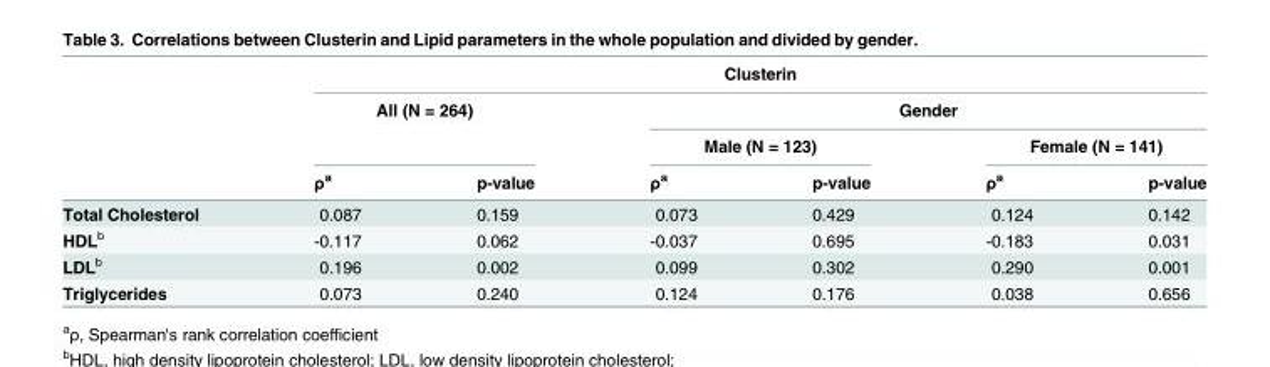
<table><thead><tr><td rowspan="4"></td><td colspan="6">Clusterin</td></tr><tr><td rowspan="2" colspan="2">All (N = 264)</td><td colspan="4">Gender</td></tr><tr><td colspan="2">Male (N = 123)</td><td colspan="2">Female (N = 141)</td></tr><tr><td>ρ<sup>a</sup></td><td>p-value</td><td>ρ<sup>a</sup></td><td>p-value</td><td>ρ<sup>a</sup></td><td>p-value</td></tr></thead><tbody><tr><td>Total Cholesterol</td><td>0.087</td><td>0.159</td><td>0.073</td><td>0.429</td><td>0.124</td><td>0.142</td></tr><tr><td>HDL<sup>b</sup></td><td>-0.117</td><td>0.062</td><td>-0.037</td><td>0.695</td><td>-0.183</td><td>0.031</td></tr><tr><td>LDL<sup>b</sup></td><td>0.196</td><td>0.002</td><td>0.099</td><td>0.302</td><td>0.290</td><td>0.001</td></tr><tr><td>Triglycerides</td><td>0.073</td><td>0.240</td><td>0.124</td><td>0.176</td><td>0.038</td><td>0.656</td></tr></tbody></table>